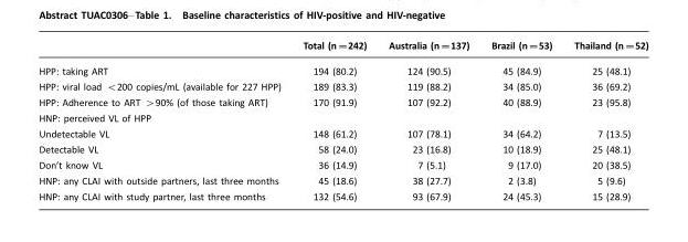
<table><thead><tr><td></td><td>Total (n=242)</td><td>Australia (n=137)</td><td>Brazil (n=53)</td><td>Thailand (n=52)</td></tr></thead><tbody><tr><td>HPP: taking ART</td><td>194 (80.2)</td><td>124 (90.5)</td><td>45 (84.9)</td><td>25 (48.1)</td></tr><tr><td>HPP: viral load &lt;200 copies/mL (available for 227 HPP)</td><td>189 (83.3)</td><td>119 (88.2)</td><td>34 (85.0)</td><td>36 (69.2)</td></tr><tr><td>HPP: Adherence to ART &gt;90% (of those taking ART)</td><td>170 (91.9)</td><td>107 (92.2)</td><td>40 (88.9)</td><td>23 (95.8)</td></tr><tr><td colspan="5">HNP: perceived VL of HPP</td></tr><tr><td>Undetectable VL</td><td>148 (61.2)</td><td>107 (78.1)</td><td>34 (64.2)</td><td>7 (13.5)</td></tr><tr><td>Detectable VL</td><td>58 (24.0)</td><td>23 (16.8)</td><td>10 (18.9)</td><td>25 (48.1)</td></tr><tr><td>Don’t know VL</td><td>36 (14.9)</td><td>7 (5.1)</td><td>9 (17.0)</td><td>20 (38.5)</td></tr><tr><td>HNP: any CLAI with outside partners, last three months</td><td>45 (18.6)</td><td>38 (27.7)</td><td>2 (3.8)</td><td>5 (9.6)</td></tr><tr><td>HNP: any CLAI with study partner, last three months</td><td>132 (54.6)</td><td>93 (67.9)</td><td>24 (45.3)</td><td>15 (28.9)</td></tr></tbody></table>